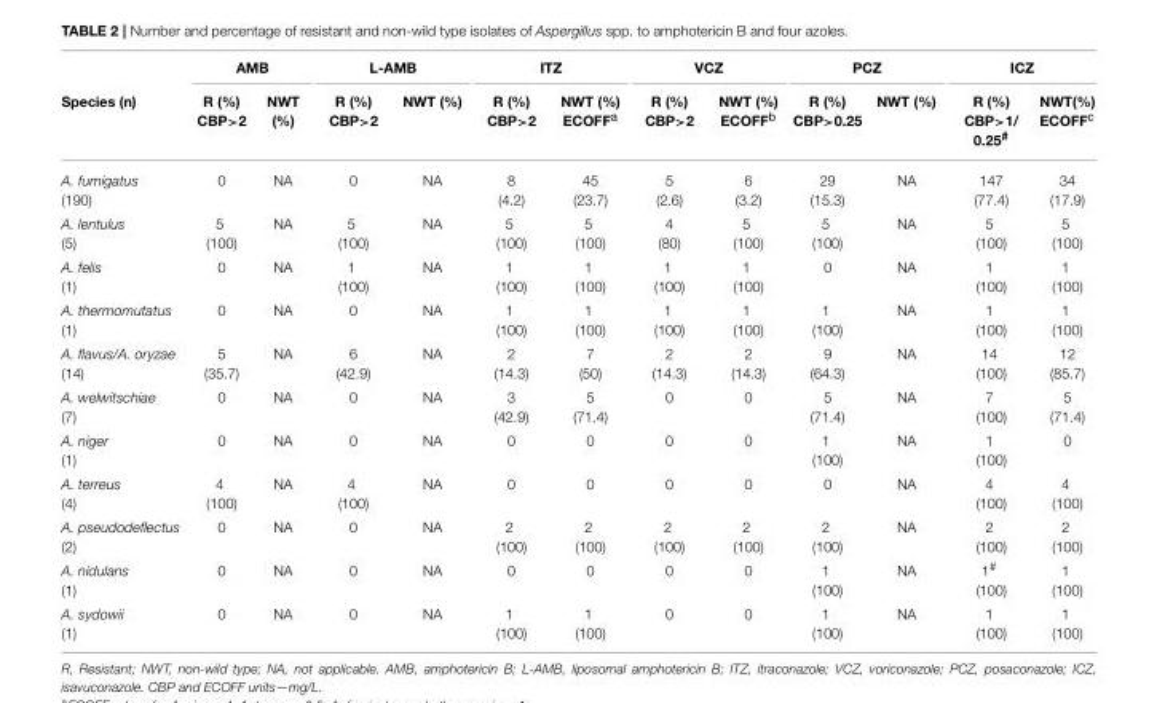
<table><thead><tr><td rowspan="2">Species (n)</td><td colspan="2">AMB</td><td colspan="2">L-AMB</td><td colspan="2">ITZ</td><td colspan="2">VCZ</td><td colspan="2">PCZ</td><td colspan="2">ICZ</td></tr><tr><td>R (%) CBP&gt;2</td><td>NWT (%)</td><td>R (%) CBP&gt;2</td><td>NWT (%)</td><td>R (%) CBP&gt;2</td><td>NWT (%) ECOFF<sup>a</sup></td><td>R (%) CBP&gt;2</td><td>NWT (%) ECOFF<sup>b</sup></td><td>R (%) CBP&gt;0.25</td><td>NWT (%)</td><td>R (%) CBP&gt;1/ 0.25<sup>#</sup></td><td>NWT(%) ECOFF<sup>c</sup></td></tr></thead><tbody><tr><td>A. fumigatus (190)</td><td>0</td><td>NA</td><td>0</td><td>NA</td><td>8 (4.2)</td><td>45 (23.7)</td><td>5 (2.6)</td><td>6 (3.2)</td><td>29 (15.3)</td><td>NA</td><td>147 (77.4)</td><td>34 (17.9)</td></tr><tr><td>A. lentulus (5)</td><td>5 (100)</td><td>NA</td><td>5 (100)</td><td>NA</td><td>5 (100)</td><td>5 (100)</td><td>4 (80)</td><td>5 (100)</td><td>5 (100)</td><td>NA</td><td>5 (100)</td><td>5 (100)</td></tr><tr><td>A. felis (1)</td><td>0</td><td>NA</td><td>1 (100)</td><td>NA</td><td>1 (100)</td><td>1 (100)</td><td>1 (100)</td><td>1 (100)</td><td>0</td><td>NA</td><td>1 (100)</td><td>1 (100)</td></tr><tr><td>A. thermomutatus (1)</td><td>0</td><td>NA</td><td>0</td><td>NA</td><td>1 (100)</td><td>1 (100)</td><td>1 (100)</td><td>1 (100)</td><td>1 (100)</td><td>NA</td><td>1 (100)</td><td>1 (100)</td></tr><tr><td>A. flavus/A. oryzae (14)</td><td>5 (35.7)</td><td>NA</td><td>6 (42.9)</td><td>NA</td><td>2 (14.3)</td><td>7 (50)</td><td>2 (14.3)</td><td>2 (14.3)</td><td>9 (64.3)</td><td>NA</td><td>14 (100)</td><td>12 (85.7)</td></tr><tr><td>A. welwitschiae (7)</td><td>0</td><td>NA</td><td>0</td><td>NA</td><td>3 (42.9)</td><td>5 (71.4)</td><td>0</td><td>0</td><td>5 (71.4)</td><td>NA</td><td>7 (100)</td><td>5 (71.4)</td></tr><tr><td>A. niger (1)</td><td>0</td><td>NA</td><td>0</td><td>NA</td><td>0</td><td>0</td><td>0</td><td>0</td><td>1 (100)</td><td>NA</td><td>1 (100)</td><td>0</td></tr><tr><td>A. terreus (4)</td><td>4 (100)</td><td>NA</td><td>4 (100)</td><td>NA</td><td>0</td><td>0</td><td>0</td><td>0</td><td>0</td><td>NA</td><td>4 (100)</td><td>4 (100)</td></tr><tr><td>A. pseudodeflectus (2)</td><td>0</td><td>NA</td><td>0</td><td>NA</td><td>2 (100)</td><td>2 (100)</td><td>2 (100)</td><td>2 (100)</td><td>2 (100)</td><td>NA</td><td>2 (100)</td><td>2 (100)</td></tr><tr><td>A. nidulans (1)</td><td>0</td><td>NA</td><td>0</td><td>NA</td><td>0</td><td>0</td><td>0</td><td>0</td><td>1 (100)</td><td>NA</td><td>1<sup>#</sup> (100)</td><td>1 (100)</td></tr><tr><td>A. sydowii (1)</td><td>0</td><td>NA</td><td>0</td><td>NA</td><td>1 (100)</td><td>1 (100)</td><td>0</td><td>0</td><td>1 (100)</td><td>NA</td><td>1 (100)</td><td>1 (100)</td></tr></tbody></table>